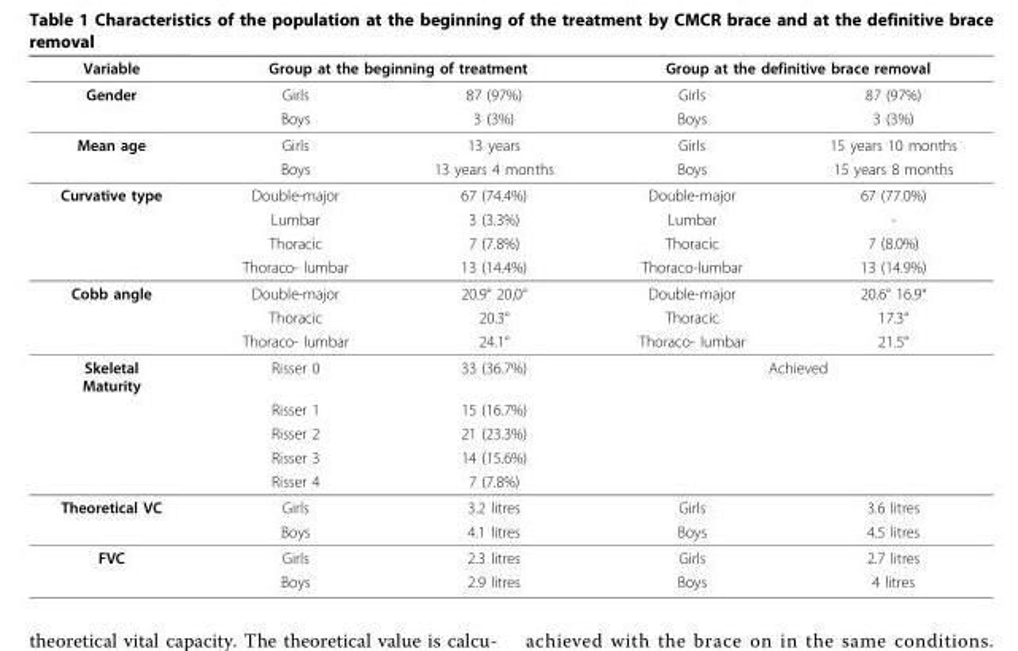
<table><thead><tr><td rowspan="2">Variable Gender</td><td colspan="2">Group at the beginning of treatment</td><td colspan="2">Group at the definitive brace removal</td></tr><tr><td>Girls</td><td>87 (97%)</td><td>Girls</td><td>87 (97%)</td></tr></thead><tbody><tr><td></td><td>Boys</td><td>3 (3%)</td><td>Boys</td><td>3 (3%)</td></tr><tr><td rowspan="2">Mean age</td><td>Girls</td><td>13 years</td><td>Girls</td><td>15 years 10 months</td></tr><tr><td>Boys</td><td>13 years 4 months</td><td>Boys</td><td>15 years 8 months</td></tr><tr><td rowspan="4">Curvative type</td><td>Double-major</td><td>67 (74.4%)</td><td>Double-major</td><td>67 (77.0%)</td></tr><tr><td>Lumbar</td><td>3 (3.3%)</td><td>Lumbar</td><td>-</td></tr><tr><td>Thoracic</td><td>7 (7.8%)</td><td>Thoracic</td><td>7 (8.0%)</td></tr><tr><td>Thoraco- lumbar</td><td>13 (14.4%)</td><td>Thoraco-lumbar</td><td>13 (14.9%)</td></tr><tr><td rowspan="3">Cobb angle</td><td>Double-major</td><td>20.9° 20,0°</td><td>Double-major</td><td>20.6° 16.9°</td></tr><tr><td>Thoracic</td><td>20.3°</td><td>Thoracic</td><td>17.3°</td></tr><tr><td>Thoraco- lumbar</td><td>24.1°</td><td>Thoraco- lumbar</td><td>21.5°</td></tr><tr><td rowspan="5">Skeletal Maturity</td><td>Risser 0</td><td>33 (36.7%)</td><td colspan="2">Achieved</td></tr><tr><td>Risser 1</td><td>15 (16.7%)</td><td></td><td></td></tr><tr><td>Risser 2</td><td>21 (23.3%)</td><td></td><td></td></tr><tr><td>Risser 3</td><td>14 (15.6%)</td><td></td><td></td></tr><tr><td>Risser 4</td><td>7 (7.8%)</td><td></td><td></td></tr><tr><td rowspan="2">Theoretical VC</td><td>Girls</td><td>3.2 litres</td><td>Girls</td><td>3.6 litres</td></tr><tr><td>Boys</td><td>4.1 litres</td><td>Boys</td><td>4.5 litres</td></tr><tr><td rowspan="2">FVC</td><td>Girls</td><td>2.3 litres</td><td>Girls</td><td>2.7 litres</td></tr><tr><td>Boys</td><td>2.9 litres</td><td>Boys</td><td>4 litres</td></tr></tbody></table>